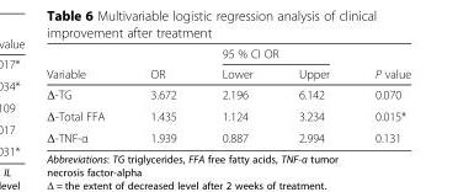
<table><thead><tr><td rowspan="2">Variable</td><td rowspan="2">OR</td><td colspan="2">95 % CI OR</td><td rowspan="2">P value</td></tr><tr><td>Lower</td><td>Upper</td></tr></thead><tbody><tr><td>Δ-TG</td><td>3.672</td><td>2.196</td><td>6.142</td><td>0.070</td></tr><tr><td>Δ-Total FFA</td><td>1.435</td><td>1.124</td><td>3.234</td><td>0.015*</td></tr><tr><td>Δ-TNF-α</td><td>1.939</td><td>0.887</td><td>2.994</td><td>0.131</td></tr></tbody></table>